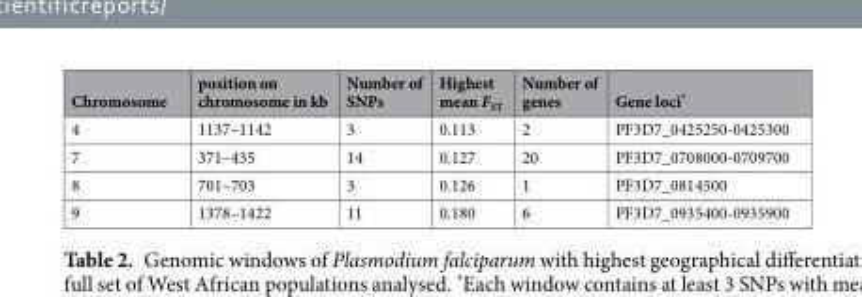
<table><thead><tr><td>Chromosome</td><td>position on chromosome in kb</td><td>Number of SNPs</td><td>Highest mean F<sub>ST</sub></td><td>Number of genes</td><td>Gene loci*</td></tr></thead><tbody><tr><td>4</td><td>1137–1142</td><td>3</td><td>0.113</td><td>2</td><td>PF3D7_0425250-0425300</td></tr><tr><td>7</td><td>371–435</td><td>14</td><td>0.127</td><td>20</td><td>PF3D7_0708000-0709700</td></tr><tr><td>8</td><td>701–703</td><td>3</td><td>0.126</td><td>1</td><td>PF3D7_0814500</td></tr><tr><td>9</td><td>1378–1422</td><td>11</td><td>0.180</td><td>6</td><td>PF3D7_0935400-0935900</td></tr></tbody></table>